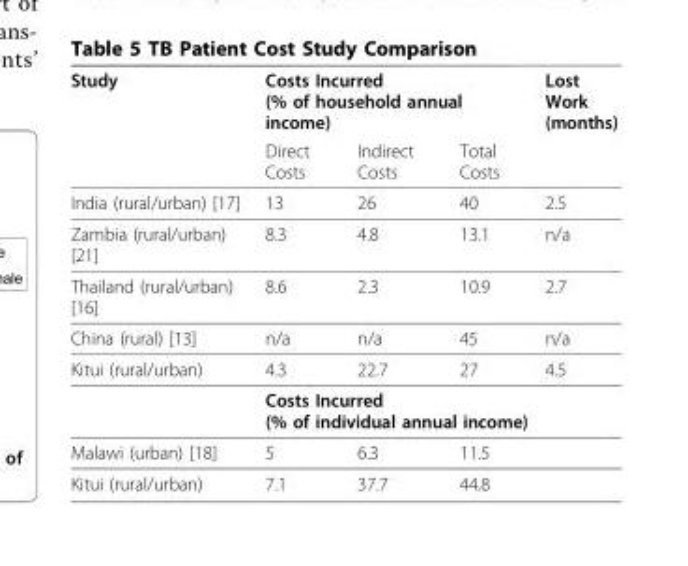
<table><thead><tr><td rowspan="2">Study</td><td colspan="3">Costs Incurred (% of household annual income)</td><td rowspan="2">Lost Work (months)</td></tr><tr><td>Direct Costs</td><td>Indirect Costs</td><td>Total Costs</td></tr></thead><tbody><tr><td>India (rural/urban) [17]</td><td>13</td><td>26</td><td>40</td><td>2.5</td></tr><tr><td>Zambia (rural/urban) [21]</td><td>8.3</td><td>4.8</td><td>13.1</td><td>n/a</td></tr><tr><td>Thailand (rural/urban) [16]</td><td>8.6</td><td>2.3</td><td>10.9</td><td>2.7</td></tr><tr><td>China (rural) [13]</td><td>n/a</td><td>n/a</td><td>45</td><td>n/a</td></tr><tr><td rowspan="2">Kitui (rural/urban)</td><td>4.3</td><td>22.7</td><td>27</td><td>4.5</td></tr><tr><td colspan="4">Costs Incurred (% of individual annual income)</td></tr><tr><td>Malawi (urban) [18]</td><td>5</td><td>6.3</td><td>11.5</td><td></td></tr><tr><td>Kitui (rural/urban)</td><td>7.1</td><td>37.7</td><td>44.8</td><td></td></tr></tbody></table>